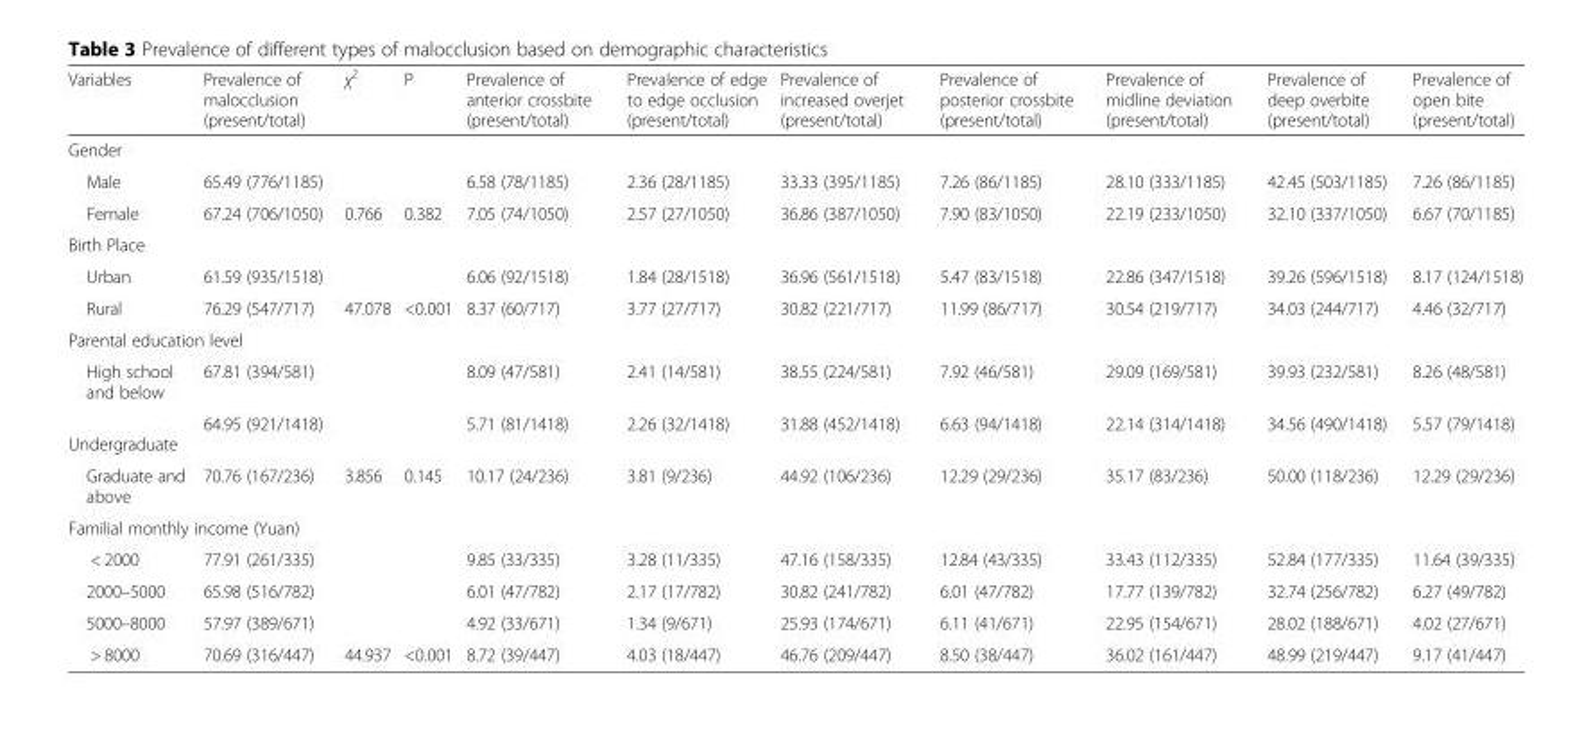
<table><thead><tr><td>Variables</td><td>Prevalence of malocclusion (present/total)</td><td>χ<sup>2</sup></td><td>P</td><td>Prevalence of anterior crossbite (present/total)</td><td>Prevalence of edge to edge occlusion (present/total)</td><td>Prevalence of increased overjet (present/total)</td><td>Prevalence of posterior crossbite (present/total)</td><td>Prevalence of midline deviation (present/total)</td><td>Prevalence of deep overbite (present/total)</td><td>Prevalence of open bite (present/total)</td></tr></thead><tbody><tr><td colspan="11">Gender</td></tr><tr><td>Male</td><td>65.49 (776/1185)</td><td></td><td></td><td>6.58 (78/1185)</td><td>2.36 (28/1185)</td><td>33.33 (395/1185)</td><td>7.26 (86/1185)</td><td>28.10 (333/1185)</td><td>42.45 (503/1185)</td><td>7.26 (86/1185)</td></tr><tr><td>Female</td><td>67.24 (706/1050)</td><td>0.766</td><td>0.382</td><td>7.05 (74/1050)</td><td>2.57 (27/1050)</td><td>36.86 (387/1050)</td><td>7.90 (83/1050)</td><td>22.19 (233/1050)</td><td>32.10 (337/1050)</td><td>6.67 (70/1185)</td></tr><tr><td colspan="11">Birth Place</td></tr><tr><td>Urban</td><td>61.59 (935/1518)</td><td></td><td></td><td>6.06 (92/1518)</td><td>1.84 (28/1518)</td><td>36.96 (561/1518)</td><td>5.47 (83/1518)</td><td>22.86 (347/1518)</td><td>39.26 (596/1518)</td><td>8.17 (124/1518)</td></tr><tr><td>Rural</td><td>76.29 (547/717)</td><td>47.078</td><td>&lt;0.001</td><td>8.37 (60/717)</td><td>3.77 (27/717)</td><td>30.82 (221/717)</td><td>11.99 (86/717)</td><td>30.54 (219/717)</td><td>34.03 (244/717)</td><td>4.46 (32/717)</td></tr><tr><td colspan="11">Parental education level</td></tr><tr><td>High school and below</td><td>67.81 (394/581)</td><td></td><td></td><td>8.09 (47/581)</td><td>2.41 (14/581)</td><td>38.55 (224/581)</td><td>7.92 (46/581)</td><td>29.09 (169/581)</td><td>39.93 (232/581)</td><td>8.26 (48/581)</td></tr><tr><td>Undergraduate</td><td>64.95 (921/1418)</td><td></td><td></td><td>5.71 (81/1418)</td><td>2.26 (32/1418)</td><td>31.88 (452/1418)</td><td>6.63 (94/1418)</td><td>22.14 (314/1418)</td><td>34.56 (490/1418)</td><td>5.57 (79/1418)</td></tr><tr><td>Graduate and above</td><td>70.76 (167/236)</td><td>3.856</td><td>0.145</td><td>10.17 (24/236)</td><td>3.81 (9/236)</td><td>44.92 (106/236)</td><td>12.29 (29/236)</td><td>35.17 (83/236)</td><td>50.00 (118/236)</td><td>12.29 (29/236)</td></tr><tr><td colspan="11">Familial monthly income (Yuan)</td></tr><tr><td>&lt; 2000</td><td>77.91 (261/335)</td><td></td><td></td><td>9.85 (33/335)</td><td>3.28 (11/335)</td><td>47.16 (158/335)</td><td>12.84 (43/335)</td><td>33.43 (112/335)</td><td>52.84 (177/335)</td><td>11.64 (39/335)</td></tr><tr><td>2000–5000</td><td>65.98 (516/782)</td><td></td><td></td><td>6.01 (47/782)</td><td>2.17 (17/782)</td><td>30.82 (241/782)</td><td>6.01 (47/782)</td><td>17.77 (139/782)</td><td>32.74 (256/782)</td><td>6.27 (49/782)</td></tr><tr><td>5000–8000</td><td>57.97 (389/671)</td><td></td><td></td><td>4.92 (33/671)</td><td>1.34 (9/671)</td><td>25.93 (174/671)</td><td>6.11 (41/671)</td><td>22.95 (154/671)</td><td>28.02 (188/671)</td><td>4.02 (27/671)</td></tr><tr><td>&gt; 8000</td><td>70.69 (316/447)</td><td>44.937</td><td>&lt;0.001</td><td>8.72 (39/447)</td><td>4.03 (18/447)</td><td>46.76 (209/447)</td><td>8.50 (38/447)</td><td>36.02 (161/447)</td><td>48.99 (219/447)</td><td>9.17 (41/447)</td></tr></tbody></table>